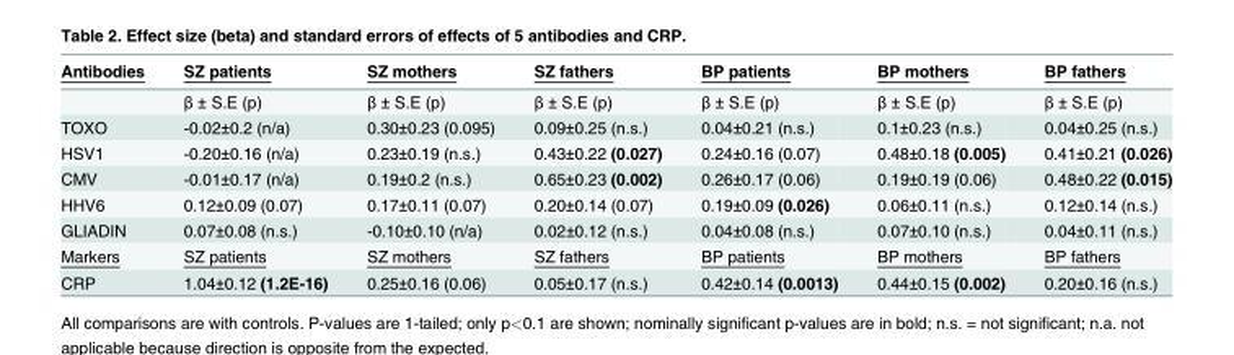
<table><thead><tr><td>Antibodies</td><td>SZ patients</td><td>SZ mothers</td><td>SZ fathers</td><td>BP patients</td><td>BP mothers</td><td>BP fathers</td></tr></thead><tbody><tr><td></td><td>β ± S.E (p)</td><td>β ± S.E (p)</td><td>β ± S.E (p)</td><td>β ± S.E (p)</td><td>β ± S.E (p)</td><td>β ± S.E (p)</td></tr><tr><td>TOXO</td><td>-0.02±0.2 (n/a)</td><td>0.30±0.23 (0.095)</td><td>0.09±0.25 (n.s.)</td><td>0.04±0.21 (n.s.)</td><td>0.1±0.23 (n.s.)</td><td>0.04±0.25 (n.s.)</td></tr><tr><td>HSV1</td><td>-0.20±0.16 (n/a)</td><td>0.23±0.19 (n.s.)</td><td>0.43±0.22 (0.027)</td><td>0.24±0.16 (0.07)</td><td>0.48±0.18 (0.005)</td><td>0.41±0.21 (0.026)</td></tr><tr><td>CMV</td><td>-0.01±0.17 (n/a)</td><td>0.19±0.2 (n.s.)</td><td>0.65±0.23 (0.002)</td><td>0.26±0.17 (0.06)</td><td>0.19±0.19 (0.06)</td><td>0.48±0.22 (0.015)</td></tr><tr><td>HHV6</td><td>0.12±0.09 (0.07)</td><td>0.17±0.11 (0.07)</td><td>0.20±0.14 (0.07)</td><td>0.19±0.09 (0.026)</td><td>0.06±0.11 (n.s.)</td><td>0.12±0.14 (n.s.)</td></tr><tr><td>GLIADIN</td><td>0.07±0.08 (n.s.)</td><td>-0.10±0.10 (n/a)</td><td>0.02±0.12 (n.s.)</td><td>0.04±0.08 (n.s.)</td><td>0.07±0.10 (n.s.)</td><td>0.04±0.11 (n.s.)</td></tr><tr><td>Markers</td><td>SZ patients</td><td>SZ mothers</td><td>SZ fathers</td><td>BP patients</td><td>BP mothers</td><td>BP fathers</td></tr><tr><td>CRP</td><td>1.04±0.12 (1.2E-16)</td><td>0.25±0.16 (0.06)</td><td>0.05±0.17 (n.s.)</td><td>0.42±0.14 (0.0013)</td><td>0.44±0.15 (0.002)</td><td>0.20±0.16 (n.s.)</td></tr></tbody></table>